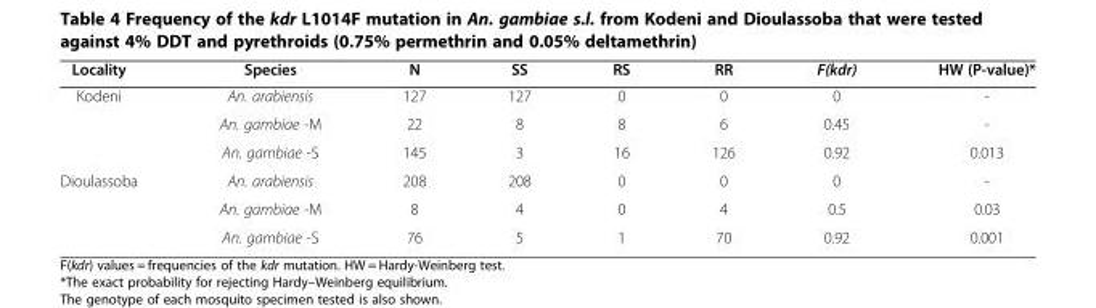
<table><thead><tr><td>Locality</td><td>Species</td><td>N</td><td>SS</td><td>RS</td><td>RR</td><td>F(kdr)</td><td>HW (P-value)*</td></tr></thead><tbody><tr><td rowspan="3">Kodeni</td><td>An. arabiensis</td><td>127</td><td>127</td><td>0</td><td>0</td><td>0</td><td>-</td></tr><tr><td>An. gambiae -M</td><td>22</td><td>8</td><td>8</td><td>6</td><td>0.45</td><td>-</td></tr><tr><td>An. gambiae -S</td><td>145</td><td>3</td><td>16</td><td>126</td><td>0.92</td><td>0.013</td></tr><tr><td rowspan="3">Dioulassoba</td><td>An. arabiensis</td><td>208</td><td>208</td><td>0</td><td>0</td><td>0</td><td>-</td></tr><tr><td>An. gambiae -M</td><td>8</td><td>4</td><td>0</td><td>4</td><td>0.5</td><td>0.03</td></tr><tr><td>An. gambiae -S</td><td>76</td><td>5</td><td>1</td><td>70</td><td>0.92</td><td>0.001</td></tr></tbody></table>